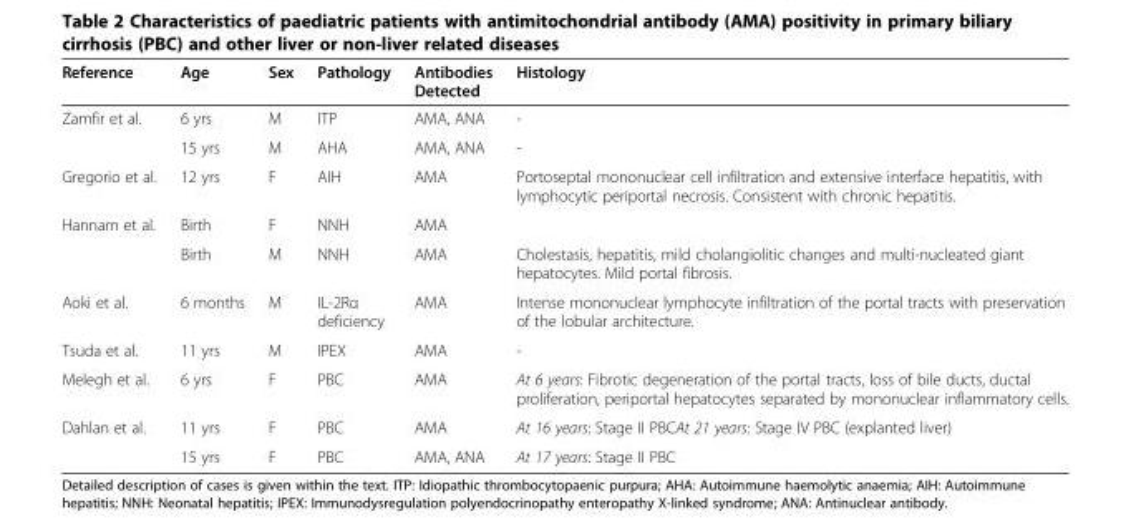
<table><thead><tr><td>Reference</td><td>Age</td><td>Sex</td><td>Pathology</td><td>Antibodies Detected</td><td>Histology</td></tr></thead><tbody><tr><td rowspan="2">Zamfir et al.</td><td>6 yrs</td><td>M</td><td>ITP</td><td>AMA, ANA</td><td>-</td></tr><tr><td>15 yrs</td><td>M</td><td>AHA</td><td>AMA, ANA</td><td>-</td></tr><tr><td>Gregorio et al.</td><td>12 yrs</td><td>F</td><td>AIH</td><td>AMA</td><td>Portoseptal mononuclear cell infiltration and extensive interface hepatitis, with lymphocytic periportal necrosis. Consistent with chronic hepatitis.</td></tr><tr><td rowspan="2">Hannam et al.</td><td>Birth</td><td>F</td><td>NNH</td><td>AMA</td><td></td></tr><tr><td>Birth</td><td>M</td><td>NNH</td><td>AMA</td><td>Cholestasis, hepatitis, mild cholangiolitic changes and multi-nucleated giant hepatocytes. Mild portal fibrosis.</td></tr><tr><td>Aoki et al.</td><td>6 months</td><td>M</td><td>IL-2Rα deficiency</td><td>AMA</td><td>Intense mononuclear lymphocyte infiltration of the portal tracts with preservation of the lobular architecture.</td></tr><tr><td>Tsuda et al.</td><td>11 yrs</td><td>M</td><td>IPEX</td><td>AMA</td><td>-</td></tr><tr><td>Melegh et al.</td><td>6 yrs</td><td>F</td><td>PBC</td><td>AMA</td><td>At 6 years: Fibrotic degeneration of the portal tracts, loss of bile ducts, ductal proliferation, periportal hepatocytes separated by mononuclear inflammatory cells.</td></tr><tr><td rowspan="2">Dahlan et al.</td><td>11 yrs</td><td>F</td><td>PBC</td><td>AMA</td><td>At 16 years: Stage II PBCAt 21 years: Stage IV PBC (explanted liver)</td></tr><tr><td>15 yrs</td><td>F</td><td>PBC</td><td>AMA, ANA</td><td>At 17 years: Stage II PBC</td></tr></tbody></table>